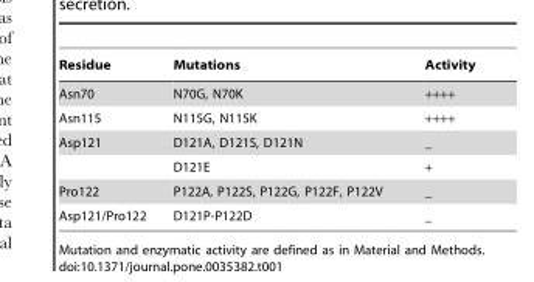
<table><thead><tr><td>Residue</td><td>Mutations</td><td>Activity</td></tr></thead><tbody><tr><td>Asn70</td><td>N70G, N70K</td><td>++++</td></tr><tr><td>Asn115</td><td>N115G, N115K</td><td>++++</td></tr><tr><td rowspan="2">Asp121</td><td>D121A, D121S, D121N</td><td>_</td></tr><tr><td>D121E</td><td>+</td></tr><tr><td>Pro122</td><td>P122A, P122S, P122G, P122F, P122V</td><td>_</td></tr><tr><td>Asp121/Pro122</td><td>D121P-P122D</td><td>_</td></tr></tbody></table>